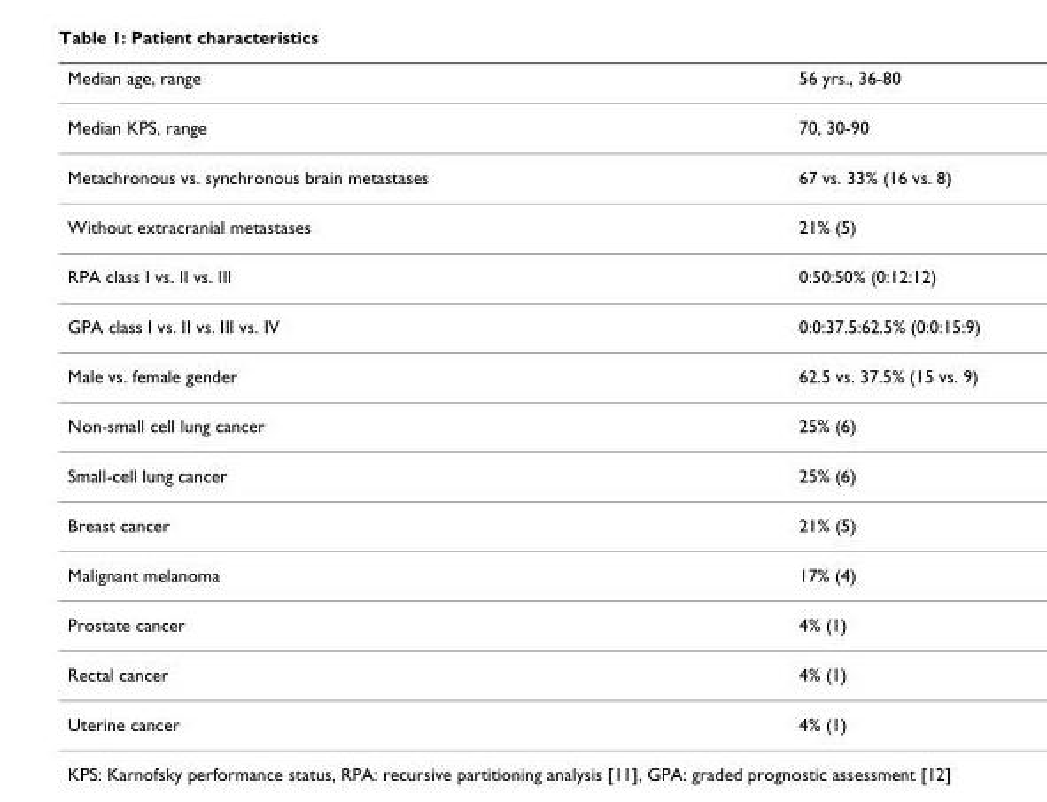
<table><thead><tr><td>Median age, range</td><td>56 yrs., 36-80</td></tr></thead><tbody><tr><td>Median KPS, range</td><td>70, 30-90</td></tr><tr><td>Metachronous vs. synchronous brain metastases</td><td>67 vs. 33% (16 vs. 8)</td></tr><tr><td>Without extracranial metastases</td><td>21% (5)</td></tr><tr><td>RPA class I vs. II vs. III</td><td>0:50:50% (0:12:12)</td></tr><tr><td>GPA class I vs. II vs. III vs. IV</td><td>0:0:37.5:62.5% (0:0:15:9)</td></tr><tr><td>Male vs. female gender</td><td>62.5 vs. 37.5% (15 vs. 9)</td></tr><tr><td>Non-small cell lung cancer</td><td>25% (6)</td></tr><tr><td>Small-cell lung cancer</td><td>25% (6)</td></tr><tr><td>Breast cancer</td><td>21% (5)</td></tr><tr><td>Malignant melanoma</td><td>17% (4)</td></tr><tr><td>Prostate cancer</td><td>4% (1)</td></tr><tr><td>Rectal cancer</td><td>4% (1)</td></tr><tr><td>Uterine cancer</td><td>4% (1)</td></tr></tbody></table>